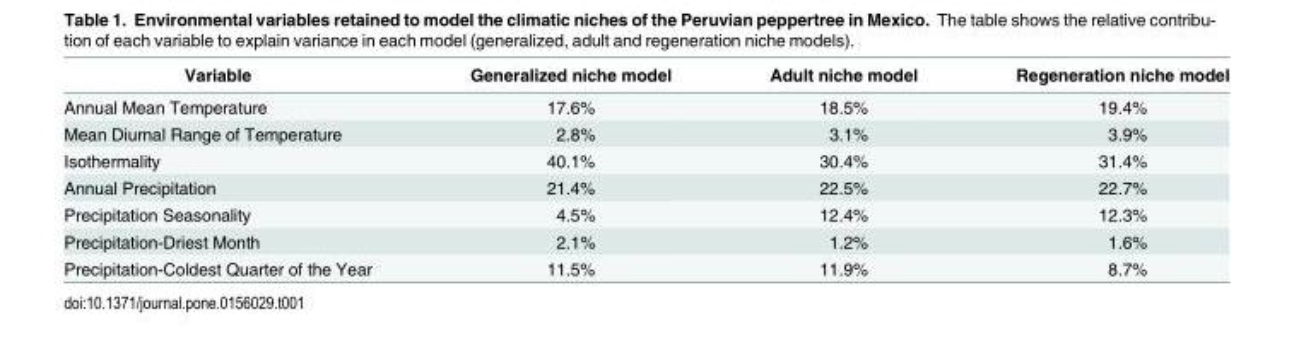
<table><thead><tr><td>Variable</td><td>Generalized niche model</td><td>Adult niche model</td><td>Regeneration niche model</td></tr></thead><tbody><tr><td>Annual Mean Temperature</td><td>17.6%</td><td>18.5%</td><td>19.4%</td></tr><tr><td>Mean Diurnal Range of Temperature</td><td>2.8%</td><td>3.1%</td><td>3.9%</td></tr><tr><td>Isothermality</td><td>40.1%</td><td>30.4%</td><td>31.4%</td></tr><tr><td>Annual Precipitation</td><td>21.4%</td><td>22.5%</td><td>22.7%</td></tr><tr><td>Precipitation Seasonality</td><td>4.5%</td><td>12.4%</td><td>12.3%</td></tr><tr><td>Precipitation-Driest Month</td><td>2.1%</td><td>1.2%</td><td>1.6%</td></tr><tr><td>Precipitation-Coldest Quarter of the Year</td><td>11.5%</td><td>11.9%</td><td>8.7%</td></tr></tbody></table>